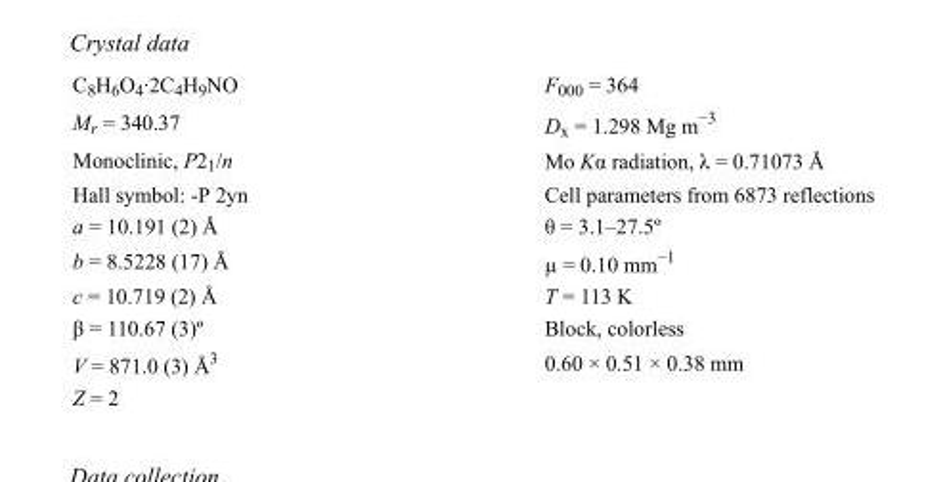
<table><tbody><tr><td>C<sub>8</sub>H<sub>6</sub>O<sub>4</sub>·2C<sub>4</sub>H<sub>9</sub>NO</td><td>F000 = 364</td></tr><tr><td>M<sub>r</sub> = 340.37</td><td>D<sub>x</sub> = 1.298 Mg m<sup>−3</sup></td></tr><tr><td>Monoclinic, P2<sub>1</sub>/n</td><td>Mo Kα radiation, λ = 0.71073 Å</td></tr><tr><td>Hall symbol: -P 2yn</td><td>Cell parameters from 6873 reflections</td></tr><tr><td>a = 10.191 (2) Å</td><td>θ = 3.1–27.5º</td></tr><tr><td>b = 8.5228 (17) Å</td><td>µ = 0.10 mm<sup>−1</sup></td></tr><tr><td>c = 10.719 (2) Å</td><td>T = 113 K</td></tr><tr><td>β = 110.67 (3)º</td><td>Block, colorless</td></tr><tr><td>V = 871.0 (3) Å<sup>3</sup></td><td>0.60 × 0.51 × 0.38 mm</td></tr><tr><td>Z = 2</td><td></td></tr></tbody></table>